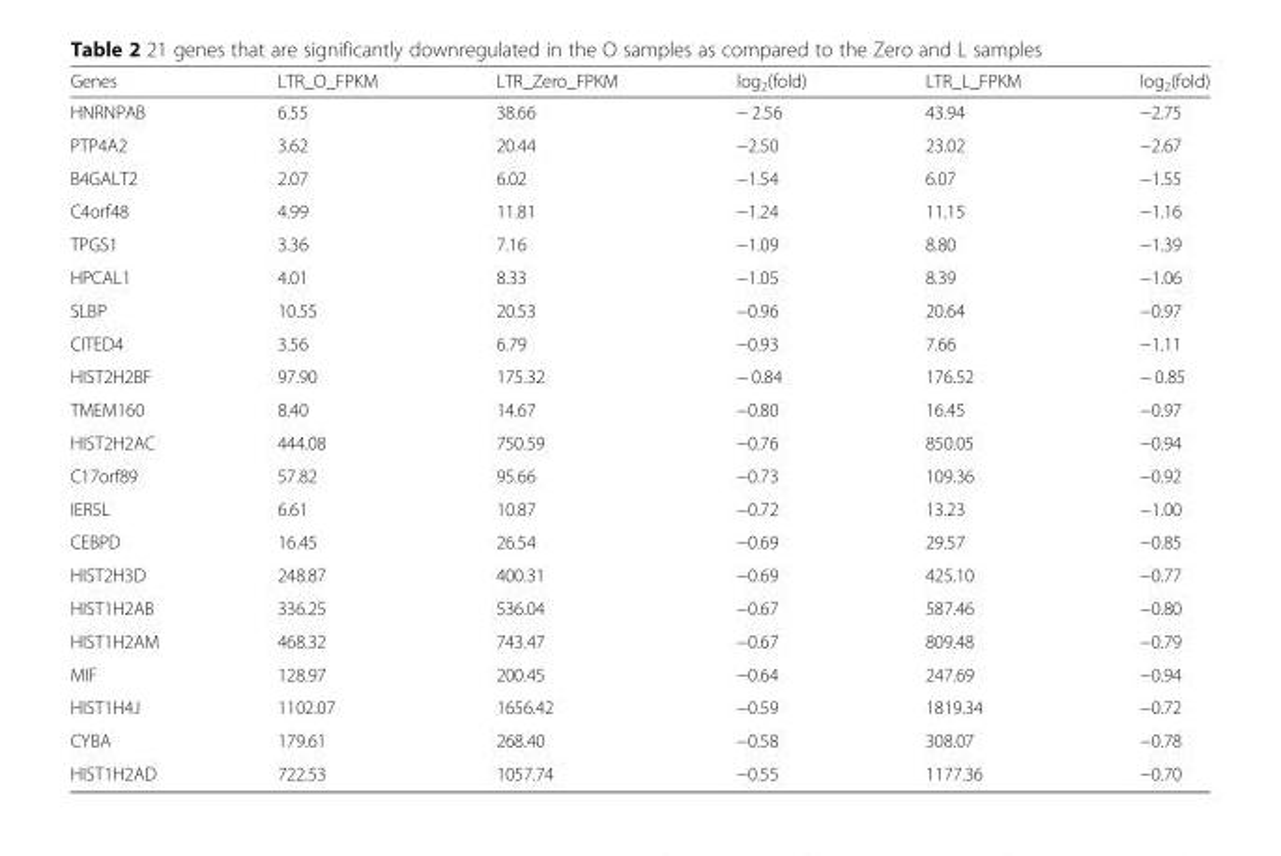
<table><thead><tr><td>Genes</td><td>LTR_O_FPKM</td><td>LTR_Zero_FPKM</td><td>log<sub>2</sub>(fold)</td><td>LTR_L_FPKM</td><td>log<sub>2</sub>(fold)</td></tr></thead><tbody><tr><td>HNRNPAB</td><td>6.55</td><td>38.66</td><td>− 2.56</td><td>43.94</td><td>−2.75</td></tr><tr><td>PTP4A2</td><td>3.62</td><td>20.44</td><td>−2.50</td><td>23.02</td><td>−2.67</td></tr><tr><td>B4GALT2</td><td>2.07</td><td>6.02</td><td>−1.54</td><td>6.07</td><td>−1.55</td></tr><tr><td>C4orf48</td><td>4.99</td><td>11.81</td><td>−1.24</td><td>11.15</td><td>−1.16</td></tr><tr><td>TPGS1</td><td>3.36</td><td>7.16</td><td>−1.09</td><td>8.80</td><td>−1.39</td></tr><tr><td>HPCAL1</td><td>4.01</td><td>8.33</td><td>−1.05</td><td>8.39</td><td>−1.06</td></tr><tr><td>SLBP</td><td>10.55</td><td>20.53</td><td>−0.96</td><td>20.64</td><td>−0.97</td></tr><tr><td>CITED4</td><td>3.56</td><td>6.79</td><td>−0.93</td><td>7.66</td><td>−1.11</td></tr><tr><td>HIST2H2BF</td><td>97.90</td><td>175.32</td><td>− 0.84</td><td>176.52</td><td>− 0.85</td></tr><tr><td>TMEM160</td><td>8.40</td><td>14.67</td><td>−0.80</td><td>16.45</td><td>−0.97</td></tr><tr><td>HIST2H2AC</td><td>444.08</td><td>750.59</td><td>−0.76</td><td>850.05</td><td>−0.94</td></tr><tr><td>C17orf89</td><td>57.82</td><td>95.66</td><td>−0.73</td><td>109.36</td><td>−0.92</td></tr><tr><td>IER5L</td><td>6.61</td><td>10.87</td><td>−0.72</td><td>13.23</td><td>−1.00</td></tr><tr><td>CEBPD</td><td>16.45</td><td>26.54</td><td>−0.69</td><td>29.57</td><td>−0.85</td></tr><tr><td>HIST2H3D</td><td>248.87</td><td>400.31</td><td>−0.69</td><td>425.10</td><td>−0.77</td></tr><tr><td>HIST1H2AB</td><td>336.25</td><td>536.04</td><td>−0.67</td><td>587.46</td><td>−0.80</td></tr><tr><td>HIST1H2AM</td><td>468.32</td><td>743.47</td><td>−0.67</td><td>809.48</td><td>−0.79</td></tr><tr><td>MIF</td><td>128.97</td><td>200.45</td><td>−0.64</td><td>247.69</td><td>−0.94</td></tr><tr><td>HIST1H4J</td><td>1102.07</td><td>1656.42</td><td>−0.59</td><td>1819.34</td><td>−0.72</td></tr><tr><td>CYBA</td><td>179.61</td><td>268.40</td><td>−0.58</td><td>308.07</td><td>−0.78</td></tr><tr><td>HIST1H2AD</td><td>722.53</td><td>1057.74</td><td>−0.55</td><td>1177.36</td><td>−0.70</td></tr></tbody></table>